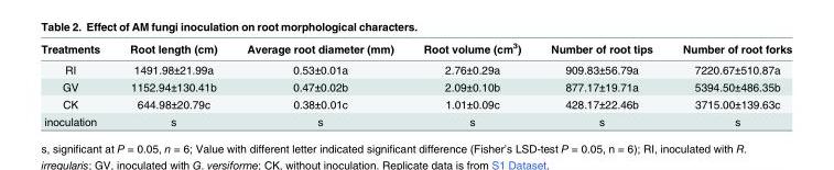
<table><thead><tr><td>Treatments</td><td>Root length (cm)</td><td>Average root diameter (mm)</td><td>Root volume (cm<sup>3</sup>)</td><td>Number of root tips</td><td>Number of root forks</td></tr></thead><tbody><tr><td>RI</td><td>1491.98±21.99a</td><td>0.53±0.01a</td><td>2.76±0.29a</td><td>909.83±56.79a</td><td>7220.67±510.87a</td></tr><tr><td>GV</td><td>1152.94±130.41b</td><td>0.47±0.02b</td><td>2.09±0.10b</td><td>877.17±19.71a</td><td>5394.50±486.35b</td></tr><tr><td>CK</td><td>644.98±20.79c</td><td>0.38±0.01c</td><td>1.01±0.09c</td><td>428.17±22.46b</td><td>3715.00±139.63c</td></tr><tr><td>inoculation</td><td>s</td><td>s</td><td>s</td><td>s</td><td>s</td></tr></tbody></table>